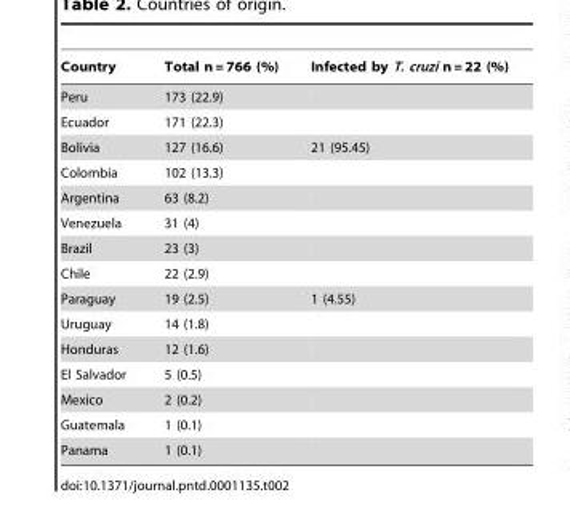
<table><thead><tr><td>Country</td><td>Total n = 766 (%)</td><td>Infected by T. cruzi n = 22 (%)</td></tr></thead><tbody><tr><td>Peru</td><td>173 (22.9)</td><td></td></tr><tr><td>Ecuador</td><td>171 (22.3)</td><td></td></tr><tr><td>Bolivia</td><td>127 (16.6)</td><td>21 (95.45)</td></tr><tr><td>Colombia</td><td>102 (13.3)</td><td></td></tr><tr><td>Argentina</td><td>63 (8.2)</td><td></td></tr><tr><td>Venezuela</td><td>31 (4)</td><td></td></tr><tr><td>Brazil</td><td>23 (3)</td><td></td></tr><tr><td>Chile</td><td>22 (2.9)</td><td></td></tr><tr><td>Paraguay</td><td>19 (2.5)</td><td>1 (4.55)</td></tr><tr><td>Uruguay</td><td>14 (1.8)</td><td></td></tr><tr><td>Honduras</td><td>12 (1.6)</td><td></td></tr><tr><td>El Salvador</td><td>5 (0.5)</td><td></td></tr><tr><td>Mexico</td><td>2 (0.2)</td><td></td></tr><tr><td>Guatemala</td><td>1 (0.1)</td><td></td></tr><tr><td>Panama</td><td>1 (0.1)</td><td></td></tr></tbody></table>